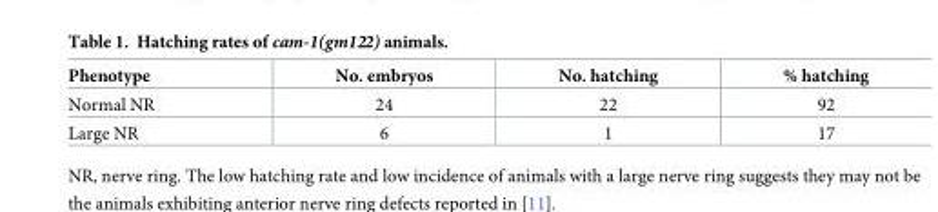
<table><thead><tr><td>Phenotype</td><td>No. embryos</td><td>No. hatching</td><td>% hatching</td></tr></thead><tbody><tr><td>Normal NR</td><td>24</td><td>22</td><td>92</td></tr><tr><td>Large NR</td><td>6</td><td>1</td><td>17</td></tr></tbody></table>